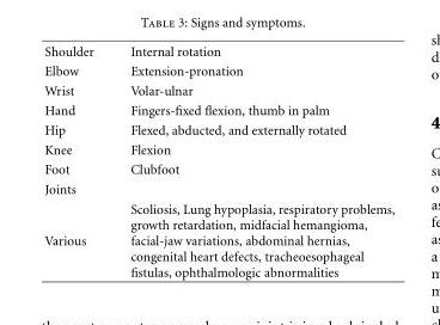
<table><tbody><tr><td>Shoulder</td><td>Internal rotation</td></tr><tr><td>Elbow</td><td>Extension-pronation</td></tr><tr><td>Wrist</td><td>Volar-ulnar</td></tr><tr><td>Hand</td><td>Fingers-fixed flexion, thumb in palm</td></tr><tr><td>Hip</td><td>Flexed, abducted, and externally rotated</td></tr><tr><td>Knee</td><td>Flexion</td></tr><tr><td>Foot</td><td>Clubfoot</td></tr><tr><td colspan="2">Joints</td></tr><tr><td>Various</td><td>Scoliosis, Lung hypoplasia, respiratory problems, growth retardation, midfacial hemangioma, facial-jaw variations, abdominal hernias, congenital heart defects, tracheoesophageal fistulas, ophthalmologic abnormalities</td></tr></tbody></table>